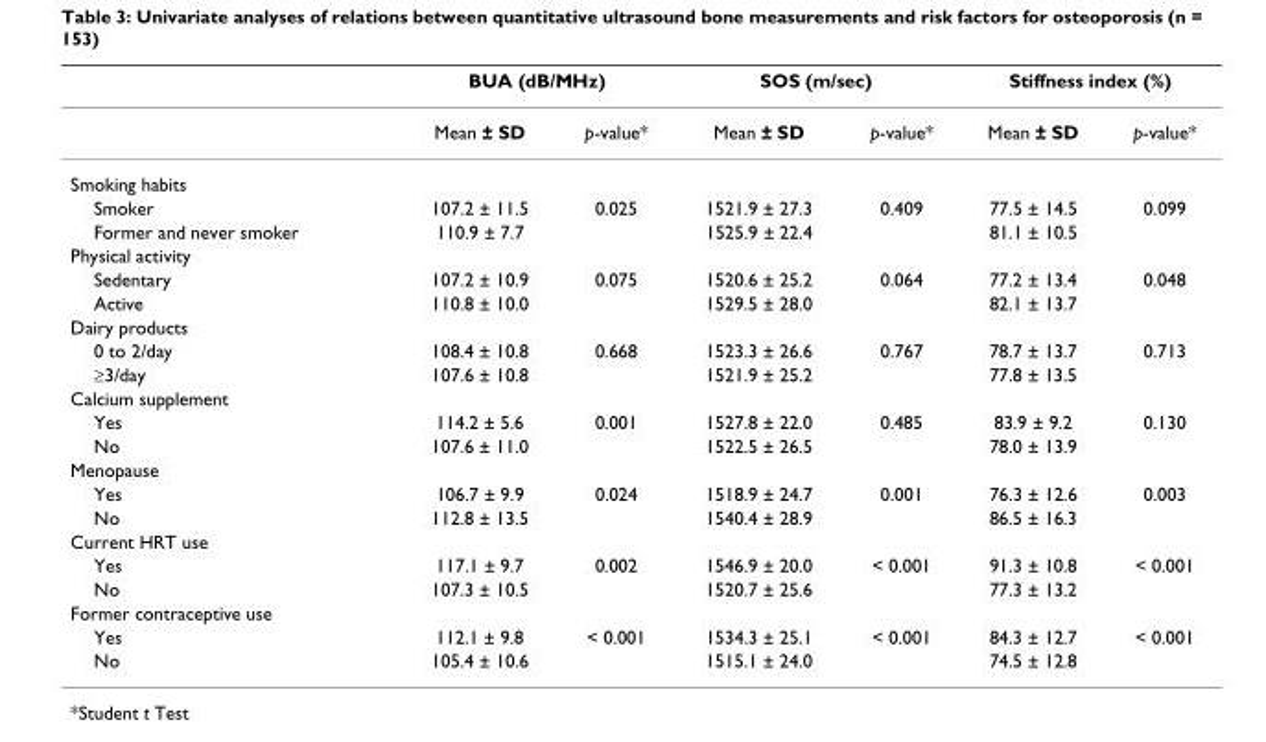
<table><thead><tr><td rowspan="2"></td><td colspan="2">BUA (dB/MHz)</td><td colspan="2">SOS (m/sec)</td><td colspan="2">Stiffness index (%)</td></tr><tr><td>Mean ± SD</td><td>p-value*</td><td>Mean ± SD</td><td>p-value*</td><td>Mean ± SD</td><td>p-value*</td></tr></thead><tbody><tr><td colspan="7">Smoking habits</td></tr><tr><td>Smoker</td><td>107.2 ± 11.5</td><td>0.025</td><td>1521.9 ± 27.3</td><td>0.409</td><td>77.5 ± 14.5</td><td>0.099</td></tr><tr><td>Former and never smoker</td><td>110.9 ± 7.7</td><td></td><td>1525.9 ± 22.4</td><td></td><td>81.1 ± 10.5</td><td></td></tr><tr><td colspan="7">Physical activity</td></tr><tr><td>Sedentary</td><td>107.2 ± 10.9</td><td>0.075</td><td>1520.6 ± 25.2</td><td>0.064</td><td>77.2 ± 13.4</td><td>0.048</td></tr><tr><td>Active</td><td>110.8 ± 10.0</td><td></td><td>1529.5 ± 28.0</td><td></td><td>82.1 ± 13.7</td><td></td></tr><tr><td colspan="7">Dairy products</td></tr><tr><td>0 to 2/day</td><td>108.4 ± 10.8</td><td>0.668</td><td>1523.3 ± 26.6</td><td>0.767</td><td>78.7 ± 13.7</td><td>0.713</td></tr><tr><td>≥3/day</td><td>107.6 ± 10.8</td><td></td><td>1521.9 ± 25.2</td><td></td><td>77.8 ± 13.5</td><td></td></tr><tr><td colspan="7">Calcium supplement</td></tr><tr><td>Yes</td><td>114.2 ± 5.6</td><td>0.001</td><td>1527.8 ± 22.0</td><td>0.485</td><td>83.9 ± 9.2</td><td>0.130</td></tr><tr><td>No</td><td>107.6 ± 11.0</td><td></td><td>1522.5 ± 26.5</td><td></td><td>78.0 ± 13.9</td><td></td></tr><tr><td colspan="7">Menopause</td></tr><tr><td>Yes</td><td>106.7 ± 9.9</td><td>0.024</td><td>1518.9 ± 24.7</td><td>0.001</td><td>76.3 ± 12.6</td><td>0.003</td></tr><tr><td>No</td><td>112.8 ± 13.5</td><td></td><td>1540.4 ± 28.9</td><td></td><td>86.5 ± 16.3</td><td></td></tr><tr><td colspan="7">Current HRT use</td></tr><tr><td>Yes</td><td>117.1 ± 9.7</td><td>0.002</td><td>1546.9 ± 20.0</td><td>&lt; 0.001</td><td>91.3 ± 10.8</td><td>&lt; 0.001</td></tr><tr><td>No</td><td>107.3 ± 10.5</td><td></td><td>1520.7 ± 25.6</td><td></td><td>77.3 ± 13.2</td><td></td></tr><tr><td colspan="7">Former contraceptive use</td></tr><tr><td>Yes</td><td>112.1 ± 9.8</td><td>&lt; 0.001</td><td>1534.3 ± 25.1</td><td>&lt; 0.001</td><td>84.3 ± 12.7</td><td>&lt; 0.001</td></tr><tr><td>No</td><td>105.4 ± 10.6</td><td></td><td>1515.1 ± 24.0</td><td></td><td>74.5 ± 12.8</td><td></td></tr></tbody></table>